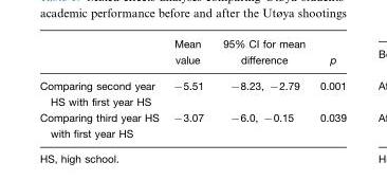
<table><thead><tr><td></td><td>Mean value</td><td>95% CI for mean difference</td><td>p</td></tr></thead><tbody><tr><td>Comparing second year HS with first year HS</td><td>−5.51</td><td>−8.23, −2.79</td><td>0.001</td></tr><tr><td>Comparing third year HS with first year HS</td><td>−3.07</td><td>−6.0, −0.15</td><td>0.039</td></tr></tbody></table>